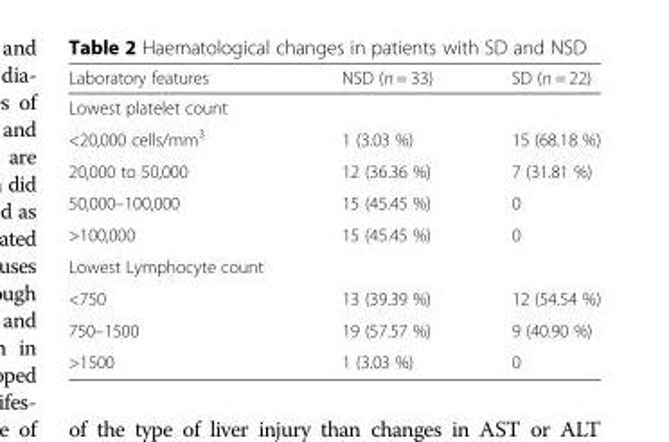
<table><thead><tr><td>Laboratory features</td><td>NSD (n = 33)</td><td>SD (n = 22)</td></tr></thead><tbody><tr><td colspan="3">Lowest platelet count</td></tr><tr><td>&lt;20,000 cells/mm<sup>3</sup></td><td>1 (3.03 %)</td><td>15 (68.18 %)</td></tr><tr><td>20,000 to 50,000</td><td>12 (36.36 %)</td><td>7 (31.81 %)</td></tr><tr><td>50,000–100,000</td><td>15 (45.45 %)</td><td>0</td></tr><tr><td>&gt;100,000</td><td>15 (45.45 %)</td><td>0</td></tr><tr><td colspan="3">Lowest Lymphocyte count</td></tr><tr><td>&lt;750</td><td>13 (39.39 %)</td><td>12 (54.54 %)</td></tr><tr><td>750–1500</td><td>19 (57.57 %)</td><td>9 (40.90 %)</td></tr><tr><td>&gt;1500</td><td>1 (3.03 %)</td><td>0</td></tr></tbody></table>